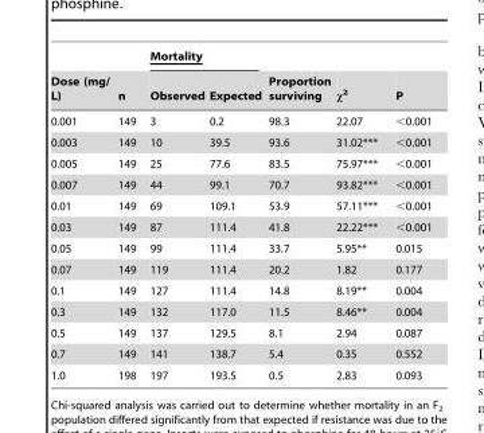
<table><thead><tr><td rowspan="2">Dose (mg/ L)</td><td rowspan="2">n</td><td colspan="2">Mortality</td><td rowspan="2">Proportion surviving</td><td rowspan="2">χ<sup>2</sup></td><td rowspan="2">P</td></tr><tr><td>Observed</td><td>Expected</td></tr></thead><tbody><tr><td>0.001</td><td>149</td><td>3</td><td>0.2</td><td>98.3</td><td>22.07</td><td>&lt;0.001</td></tr><tr><td>0.003</td><td>149</td><td>10</td><td>39.5</td><td>93.6</td><td>31.02***</td><td>&lt;0.001</td></tr><tr><td>0.005</td><td>149</td><td>25</td><td>77.6</td><td>83.5</td><td>75.97***</td><td>&lt;0.001</td></tr><tr><td>0.007</td><td>149</td><td>44</td><td>99.1</td><td>70.7</td><td>93.82***</td><td>&lt;0.001</td></tr><tr><td>0.01</td><td>149</td><td>69</td><td>109.1</td><td>53.9</td><td>57.11***</td><td>&lt;0.001</td></tr><tr><td>0.03</td><td>149</td><td>87</td><td>111.4</td><td>41.8</td><td>22.22***</td><td>&lt;0.001</td></tr><tr><td>0.05</td><td>149</td><td>99</td><td>111.4</td><td>33.7</td><td>5.95**</td><td>0.015</td></tr><tr><td>0.07</td><td>149</td><td>119</td><td>111.4</td><td>20.2</td><td>1.82</td><td>0.177</td></tr><tr><td>0.1</td><td>149</td><td>127</td><td>111.4</td><td>14.8</td><td>8.19**</td><td>0.004</td></tr><tr><td>0.3</td><td>149</td><td>132</td><td>117.0</td><td>11.5</td><td>8.46**</td><td>0.004</td></tr><tr><td>0.5</td><td>149</td><td>137</td><td>129.5</td><td>8.1</td><td>2.94</td><td>0.087</td></tr><tr><td>0.7</td><td>149</td><td>141</td><td>138.7</td><td>5.4</td><td>0.35</td><td>0.552</td></tr><tr><td>1.0</td><td>198</td><td>197</td><td>193.5</td><td>0.5</td><td>2.83</td><td>0.093</td></tr></tbody></table>